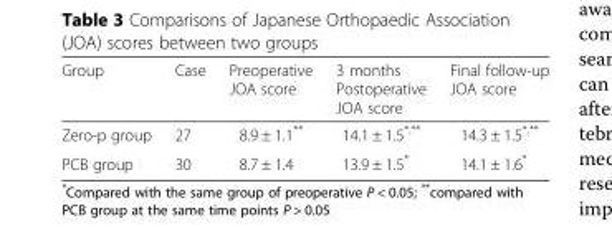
<table><thead><tr><td>Group</td><td>Case</td><td>Preoperative JOA score</td><td>3 months Postoperative JOA score</td><td>Final follow-up JOA score</td></tr></thead><tbody><tr><td>Zero-p group</td><td>27</td><td>8.9 ± 1.1**</td><td>14.1 ± 1.5<sup>*,**</sup></td><td>14.3 ± 1.5<sup>*,**</sup></td></tr><tr><td>PCB group</td><td>30</td><td>8.7 ± 1.4</td><td>13.9 ± 1.5*</td><td>14.1 ± 1.6*</td></tr></tbody></table>